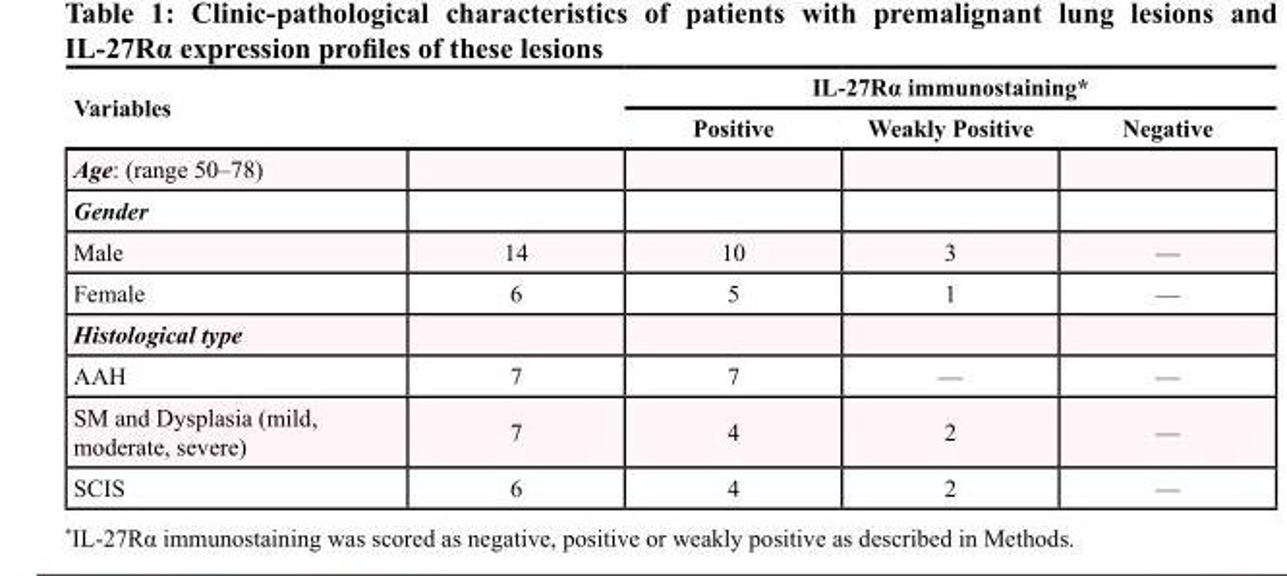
<table><thead><tr><td rowspan="2" colspan="2">Variables</td><td colspan="3">IL-27Rα immunostaining*</td></tr><tr><td rowspan="2">Positive</td><td rowspan="2">Weakly Positive</td><td rowspan="2">Negative</td></tr><tr><td>Age: (range 50–78)</td><td></td></tr></thead><tbody><tr><td colspan="5">Gender</td></tr><tr><td>Male</td><td>14</td><td>10</td><td>3</td><td>—</td></tr><tr><td>Female</td><td>6</td><td>5</td><td>1</td><td>—</td></tr><tr><td colspan="5">Histological type</td></tr><tr><td>AAH</td><td>7</td><td>7</td><td>—</td><td>—</td></tr><tr><td>SM and Dysplasia (mild, moderate, severe)</td><td>7</td><td>4</td><td>2</td><td>—</td></tr><tr><td>SCIS</td><td>6</td><td>4</td><td>2</td><td>—</td></tr></tbody></table>